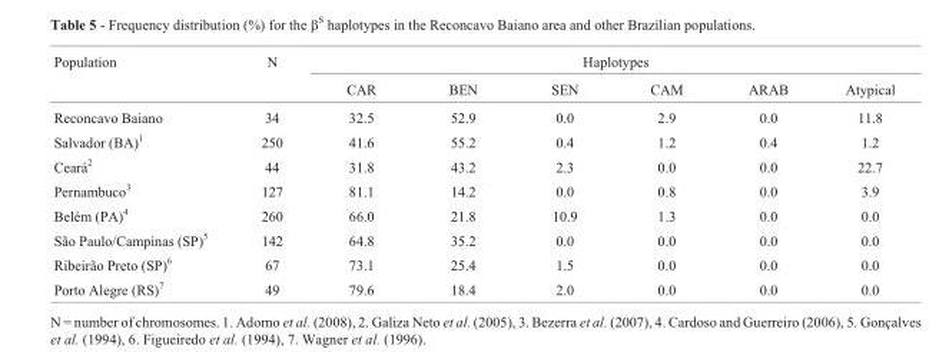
<table><thead><tr><td rowspan="2">Population</td><td rowspan="2">N</td><td colspan="6">Haplotypes</td></tr><tr><td>CAR</td><td>BEN</td><td>SEN</td><td>CAM</td><td>ARAB</td><td>Atypical</td></tr></thead><tbody><tr><td>Reconcavo Baiano</td><td>34</td><td>32.5</td><td>52.9</td><td>0.0</td><td>2.9</td><td>0.0</td><td>11.8</td></tr><tr><td>Salvador (BA)<sup>1</sup></td><td>250</td><td>41.6</td><td>55.2</td><td>0.4</td><td>1.2</td><td>0.4</td><td>1.2</td></tr><tr><td>Ceará<sup>2</sup></td><td>44</td><td>31.8</td><td>43.2</td><td>2.3</td><td>0.0</td><td>0.0</td><td>22.7</td></tr><tr><td>Pernambuco<sup>3</sup></td><td>127</td><td>81.1</td><td>14.2</td><td>0.0</td><td>0.8</td><td>0.0</td><td>3.9</td></tr><tr><td>Belém (PA)<sup>4</sup></td><td>260</td><td>66.0</td><td>21.8</td><td>10.9</td><td>1.3</td><td>0.0</td><td>0.0</td></tr><tr><td>São Paulo/Campinas (SP)<sup>5</sup></td><td>142</td><td>64.8</td><td>35.2</td><td>0.0</td><td>0.0</td><td>0.0</td><td>0.0</td></tr><tr><td>Ribeirão Preto (SP)<sup>6</sup></td><td>67</td><td>73.1</td><td>25.4</td><td>1.5</td><td>0.0</td><td>0.0</td><td>0.0</td></tr><tr><td>Porto Alegre (RS)<sup>7</sup></td><td>49</td><td>79.6</td><td>18.4</td><td>2.0</td><td>0.0</td><td>0.0</td><td>0.0</td></tr></tbody></table>